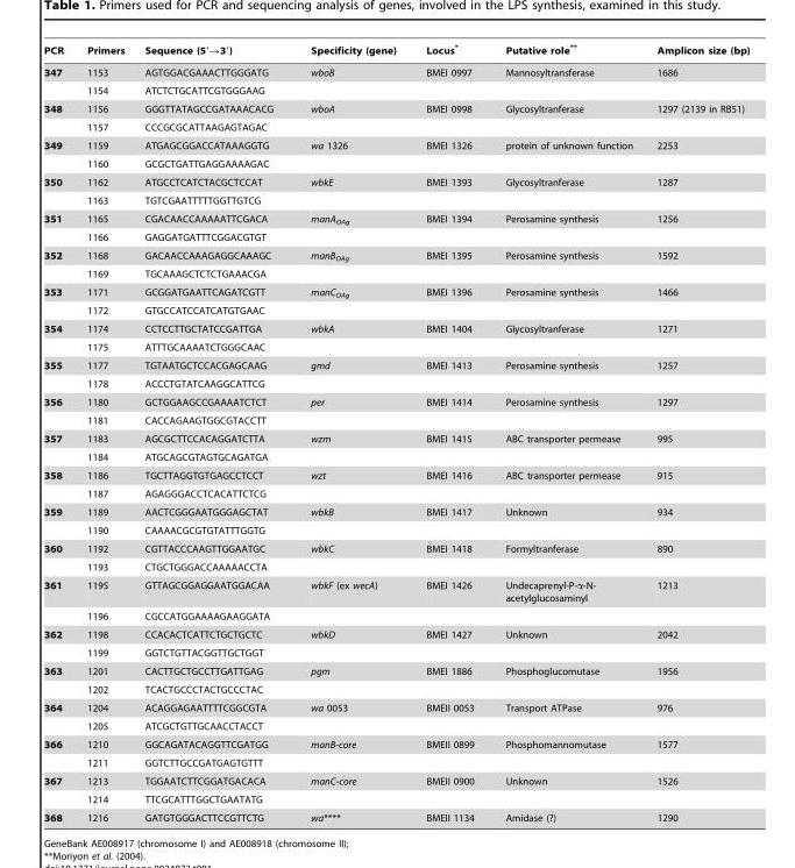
<table><thead><tr><td>PCR</td><td>Primers</td><td>Sequence (5′→3′)</td><td>Specificity (gene)</td><td>Locus*</td><td>Putative role**</td><td>Amplicon size (bp)</td></tr></thead><tbody><tr><td rowspan="2">347</td><td>1153</td><td>AGTGGACGAAACTTGGGATG</td><td>wboB</td><td>BMEI 0997</td><td>Mannosyltransferase</td><td>1686</td></tr><tr><td>1154</td><td>ATCTCTGCATTCGTGGGAAG</td><td></td><td></td><td></td><td></td></tr><tr><td rowspan="2">348</td><td>1156</td><td>GGGTTATAGCCGATAAACACG</td><td>wboA</td><td>BMEI 0998</td><td>Glycosyltranferase</td><td>1297 (2139 in RB51)</td></tr><tr><td>1157</td><td>CCCGCGCATTAAGAGTAGAC</td><td></td><td></td><td></td><td></td></tr><tr><td rowspan="2">349</td><td>1159</td><td>ATGAGCGGACCATAAAGGTG</td><td>wa 1326</td><td>BMEI 1326</td><td>protein of unknown function</td><td>2253</td></tr><tr><td>1160</td><td>GCGCTGATTGAGGAAAAGAC</td><td></td><td></td><td></td><td></td></tr><tr><td rowspan="2">350</td><td>1162</td><td>ATGCCTCATCTACGCTCCAT</td><td>wbkE</td><td>BMEI 1393</td><td>Glycosyltranferase</td><td>1287</td></tr><tr><td>1163</td><td>TGTCGAATTTTTGGTTGTCG</td><td></td><td></td><td></td><td></td></tr><tr><td rowspan="2">351</td><td>1165</td><td>CGACAACCAAAAATTCGACA</td><td>manA<sub>OAg</sub></td><td>BMEI 1394</td><td>Perosamine synthesis</td><td>1256</td></tr><tr><td>1166</td><td>GAGGATGATTTCGGACGTGT</td><td></td><td></td><td></td><td></td></tr><tr><td rowspan="2">352</td><td>1168</td><td>GACAACCAAAGAGGCAAAGC</td><td>manB<sub>OAg</sub></td><td>BMEI 1395</td><td>Perosamine synthesis</td><td>1592</td></tr><tr><td>1169</td><td>TGCAAAGCTCTCTGAAACGA</td><td></td><td></td><td></td><td></td></tr><tr><td rowspan="2">353</td><td>1171</td><td>GCGGATGAATTCAGATCGTT</td><td>manC<sub>OAg</sub></td><td>BMEI 1396</td><td>Perosamine synthesis</td><td>1466</td></tr><tr><td>1172</td><td>GTGCCATCCATCATGTGAAC</td><td></td><td></td><td></td><td></td></tr><tr><td rowspan="2">354</td><td>1174</td><td>CCTCCTTGCTATCCGATTGA</td><td>wbkA</td><td>BMEI 1404</td><td>Glycosyltranferase</td><td>1271</td></tr><tr><td>1175</td><td>ATTTGCAAAATCTGGGCAAC</td><td></td><td></td><td></td><td></td></tr><tr><td rowspan="2">355</td><td>1177</td><td>TGTAATGCTCCACGAGCAAG</td><td>gmd</td><td>BMEI 1413</td><td>Perosamine synthesis</td><td>1257</td></tr><tr><td>1178</td><td>ACCCTGTATCAAGGCATTCG</td><td></td><td></td><td></td><td></td></tr><tr><td rowspan="2">356</td><td>1180</td><td>GCTGGAAGCCGAAAATCTCT</td><td>per</td><td>BMEI 1414</td><td>Perosamine synthesis</td><td>1297</td></tr><tr><td>1181</td><td>CACCAGAAGTGGCGTACCTT</td><td></td><td></td><td></td><td></td></tr><tr><td rowspan="2">357</td><td>1183</td><td>AGCGCTTCCACAGGATCTTA</td><td>wzm</td><td>BMEI 1415</td><td>ABC transporter permease</td><td>995</td></tr><tr><td>1184</td><td>ATGCAGCGTAGTGCAGATGA</td><td></td><td></td><td></td><td></td></tr><tr><td rowspan="2">358</td><td>1186</td><td>TGCTTAGGTGTGAGCCTCCT</td><td>wzt</td><td>BMEI 1416</td><td>ABC transporter permease</td><td>915</td></tr><tr><td>1187</td><td>AGAGGGACCTCACATTCTCG</td><td></td><td></td><td></td><td></td></tr><tr><td rowspan="2">359</td><td>1189</td><td>AACTCGGGAATGGGAGCTAT</td><td>wbkB</td><td>BMEI 1417</td><td>Unknown</td><td>934</td></tr><tr><td>1190</td><td>CAAAACGCGTGTATTTGGTG</td><td></td><td></td><td></td><td></td></tr><tr><td rowspan="2">360</td><td>1192</td><td>CGTTACCCAAGTTGGAATGC</td><td>wbkC</td><td>BMEI 1418</td><td>Formyltranferase</td><td>890</td></tr><tr><td>1193</td><td>CTGCTGGGACCAAAAACCTA</td><td></td><td></td><td></td><td></td></tr><tr><td rowspan="2">361</td><td>1195</td><td>GTTAGCGGAGGAATGGACAA</td><td>wbkF (ex wecA)</td><td>BMEI 1426</td><td>Undecaprenyl-P-α-N- acetylglucosaminyl</td><td>1213</td></tr><tr><td>1196</td><td>CGCCATGGAAAAGAAGGATA</td><td></td><td></td><td></td><td></td></tr><tr><td rowspan="2">362</td><td>1198</td><td>CCACACTCATTCTGCTGCTC</td><td>wbkD</td><td>BMEI 1427</td><td>Unknown</td><td>2042</td></tr><tr><td>1199</td><td>GGTCTGTTACGGTTGCTGGT</td><td></td><td></td><td></td><td></td></tr><tr><td rowspan="2">363</td><td>1201</td><td>CACTTGCTGCCTTGATTGAG</td><td>pgm</td><td>BMEI 1886</td><td>Phosphoglucomutase</td><td>1956</td></tr><tr><td>1202</td><td>TCACTGCCCTACTGCCCTAC</td><td></td><td></td><td></td><td></td></tr><tr><td rowspan="2">364</td><td>1204</td><td>ACAGGAGAATTTTCGGCGTA</td><td>wa 0053</td><td>BMEII 0053</td><td>Transport ATPase</td><td>976</td></tr><tr><td>1205</td><td>ATCGCTGTTGCAACCTACCT</td><td></td><td></td><td></td><td></td></tr><tr><td rowspan="2">366</td><td>1210</td><td>GGCAGATACAGGTTCGATGG</td><td>manB-core</td><td>BMEII 0899</td><td>Phosphomannomutase</td><td>1577</td></tr><tr><td>1211</td><td>GGTCTTGCCGATGAGTGTTT</td><td></td><td></td><td></td><td></td></tr><tr><td rowspan="2">367</td><td>1213</td><td>TGGAATCTTCGGATGACACA</td><td>manC-core</td><td>BMEII 0900</td><td>Unknown</td><td>1526</td></tr><tr><td>1214</td><td>TTCGCATTTGGCTGAATATG</td><td></td><td></td><td></td><td></td></tr><tr><td>368</td><td>1216</td><td>GATGTGGGACTTCCGTTCTG</td><td>wa****</td><td>BMEII 1134</td><td>Amidase (?)</td><td>1290</td></tr></tbody></table>